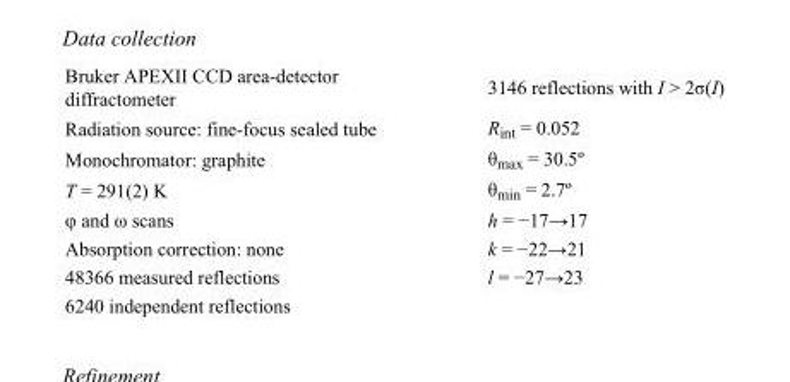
<table><tbody><tr><td>Bruker APEXII CCD area-detector diffractometer</td><td>3146 reflections with I &gt; 2σ(I)</td></tr><tr><td>Radiation source: fine-focus sealed tube</td><td>R<sub>int</sub> = 0.052</td></tr><tr><td>Monochromator: graphite</td><td>θ<sub>max</sub> = 30.5º</td></tr><tr><td>T = 291(2) K</td><td>θ<sub>min</sub> = 2.7º</td></tr><tr><td>φ and ω scans</td><td>h = −17→17</td></tr><tr><td>Absorption correction: none</td><td>k = −22→21</td></tr><tr><td>48366 measured reflections</td><td>l = −27→23</td></tr><tr><td>6240 independent reflections</td><td></td></tr></tbody></table>